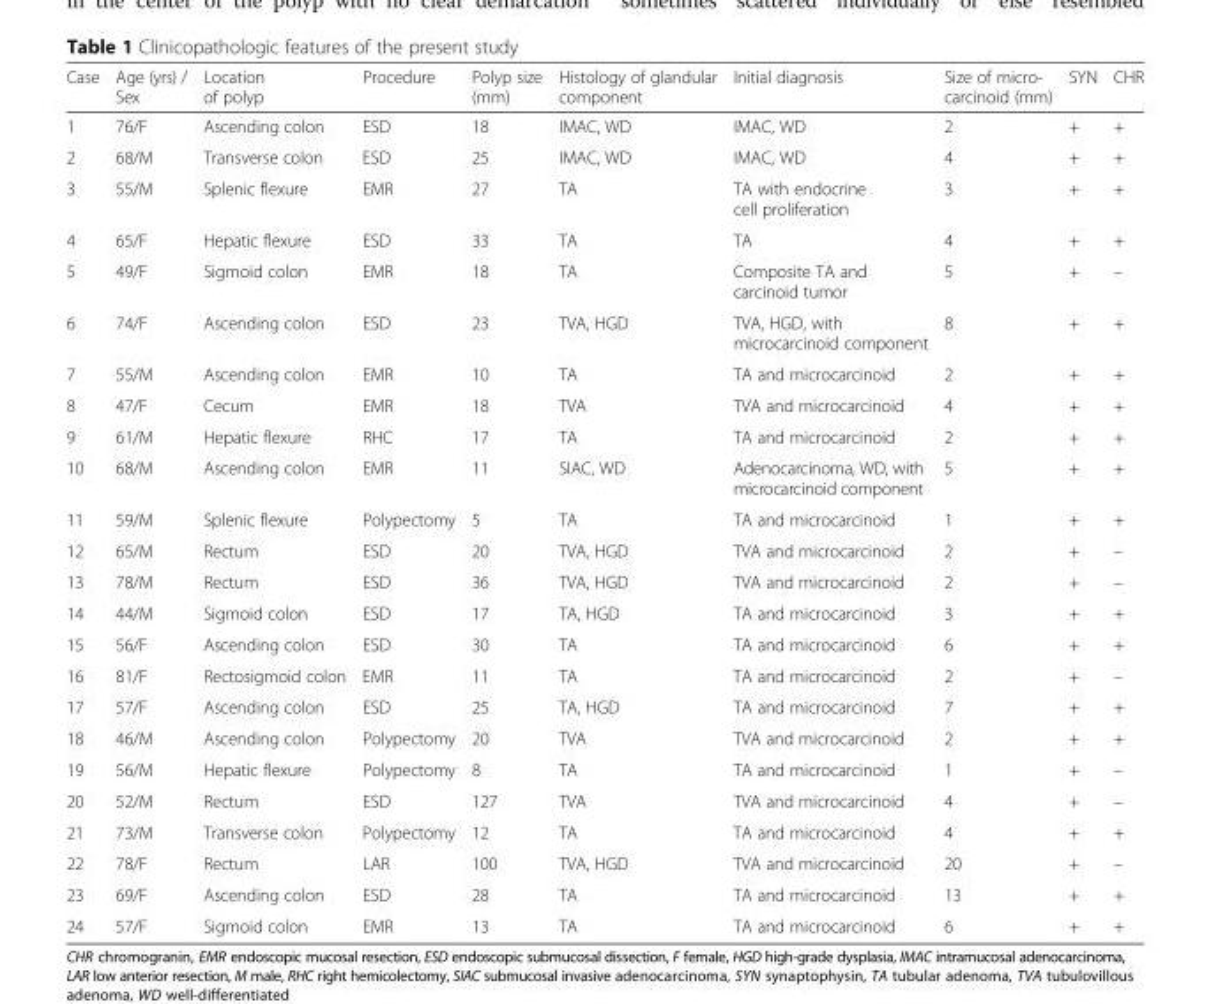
<table><thead><tr><td>Case</td><td>Age (yrs) / Sex</td><td>Location of polyp</td><td>Procedure</td><td>Polyp size (mm)</td><td>Histology of glandular component</td><td>Initial diagnosis</td><td>Size of micro- carcinoid (mm)</td><td>SYN</td><td>CHR</td></tr></thead><tbody><tr><td>1</td><td>76/F</td><td>Ascending colon</td><td>ESD</td><td>18</td><td>IMAC, WD</td><td>IMAC, WD</td><td>2</td><td>+</td><td>+</td></tr><tr><td>2</td><td>68/M</td><td>Transverse colon</td><td>ESD</td><td>25</td><td>IMAC, WD</td><td>IMAC, WD</td><td>4</td><td>+</td><td>+</td></tr><tr><td>3</td><td>55/M</td><td>Splenic flexure</td><td>EMR</td><td>27</td><td>TA</td><td>TA with endocrine cell proliferation</td><td>3</td><td>+</td><td>+</td></tr><tr><td>4</td><td>65/F</td><td>Hepatic flexure</td><td>ESD</td><td>33</td><td>TA</td><td>TA</td><td>4</td><td>+</td><td>+</td></tr><tr><td>5</td><td>49/F</td><td>Sigmoid colon</td><td>EMR</td><td>18</td><td>TA</td><td>Composite TA and carcinoid tumor</td><td>5</td><td>+</td><td>–</td></tr><tr><td>6</td><td>74/F</td><td>Ascending colon</td><td>ESD</td><td>23</td><td>TVA, HGD</td><td>TVA, HGD, with microcarcinoid component</td><td>8</td><td>+</td><td>+</td></tr><tr><td>7</td><td>55/M</td><td>Ascending colon</td><td>EMR</td><td>10</td><td>TA</td><td>TA and microcarcinoid</td><td>2</td><td>+</td><td>+</td></tr><tr><td>8</td><td>47/F</td><td>Cecum</td><td>EMR</td><td>18</td><td>TVA</td><td>TVA and microcarcinoid</td><td>4</td><td>+</td><td>+</td></tr><tr><td>9</td><td>61/M</td><td>Hepatic flexure</td><td>RHC</td><td>17</td><td>TA</td><td>TA and microcarcinoid</td><td>2</td><td>+</td><td>+</td></tr><tr><td>10</td><td>68/M</td><td>Ascending colon</td><td>EMR</td><td>11</td><td>SIAC, WD</td><td>Adenocarcinoma, WD, with microcarcinoid component</td><td>5</td><td>+</td><td>+</td></tr><tr><td>11</td><td>59/M</td><td>Splenic flexure</td><td>Polypectomy</td><td>5</td><td>TA</td><td>TA and microcarcinoid</td><td>1</td><td>+</td><td>+</td></tr><tr><td>12</td><td>65/M</td><td>Rectum</td><td>ESD</td><td>20</td><td>TVA, HGD</td><td>TVA and microcarcinoid</td><td>2</td><td>+</td><td>–</td></tr><tr><td>13</td><td>78/M</td><td>Rectum</td><td>ESD</td><td>36</td><td>TVA, HGD</td><td>TVA and microcarcinoid</td><td>2</td><td>+</td><td>–</td></tr><tr><td>14</td><td>44/M</td><td>Sigmoid colon</td><td>ESD</td><td>17</td><td>TA, HGD</td><td>TA and microcarcinoid</td><td>3</td><td>+</td><td>+</td></tr><tr><td>15</td><td>56/F</td><td>Ascending colon</td><td>ESD</td><td>30</td><td>TA</td><td>TA and microcarcinoid</td><td>6</td><td>+</td><td>+</td></tr><tr><td>16</td><td>81/F</td><td>Rectosigmoid colon</td><td>EMR</td><td>11</td><td>TA</td><td>TA and microcarcinoid</td><td>2</td><td>+</td><td>–</td></tr><tr><td>17</td><td>57/F</td><td>Ascending colon</td><td>ESD</td><td>25</td><td>TA, HGD</td><td>TA and microcarcinoid</td><td>7</td><td>+</td><td>+</td></tr><tr><td>18</td><td>46/M</td><td>Ascending colon</td><td>Polypectomy</td><td>20</td><td>TVA</td><td>TVA and microcarcinoid</td><td>2</td><td>+</td><td>+</td></tr><tr><td>19</td><td>56/M</td><td>Hepatic flexure</td><td>Polypectomy</td><td>8</td><td>TA</td><td>TA and microcarcinoid</td><td>1</td><td>+</td><td>–</td></tr><tr><td>20</td><td>52/M</td><td>Rectum</td><td>ESD</td><td>127</td><td>TVA</td><td>TVA and microcarcinoid</td><td>4</td><td>+</td><td>–</td></tr><tr><td>21</td><td>73/M</td><td>Transverse colon</td><td>Polypectomy</td><td>12</td><td>TA</td><td>TA and microcarcinoid</td><td>4</td><td>+</td><td>+</td></tr><tr><td>22</td><td>78/F</td><td>Rectum</td><td>LAR</td><td>100</td><td>TVA, HGD</td><td>TVA and microcarcinoid</td><td>20</td><td>+</td><td>–</td></tr><tr><td>23</td><td>69/F</td><td>Ascending colon</td><td>ESD</td><td>28</td><td>TA</td><td>TA and microcarcinoid</td><td>13</td><td>+</td><td>+</td></tr><tr><td>24</td><td>57/F</td><td>Sigmoid colon</td><td>EMR</td><td>13</td><td>TA</td><td>TA and microcarcinoid</td><td>6</td><td>+</td><td>+</td></tr></tbody></table>